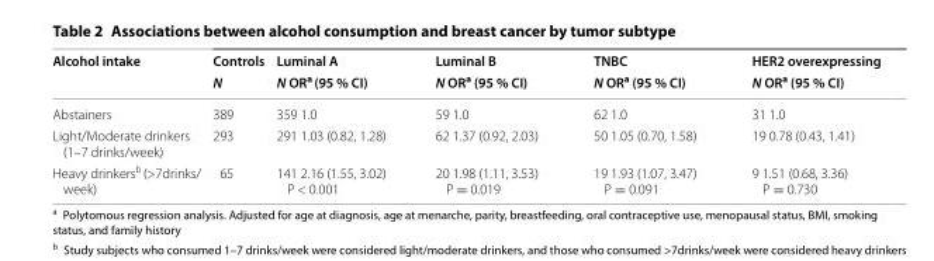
<table><thead><tr><td rowspan="2">Alcohol intake</td><td rowspan="2">Controls N</td><td rowspan="2">Luminal A N OR<sup>a</sup> (95 % CI)</td><td rowspan="2">Luminal B N OR<sup>a</sup> (95 % CI)</td><td rowspan="2">TNBC N OR<sup>a</sup> (95 % CI)</td><td rowspan="2">HER2 overexpressing N OR<sup>a</sup> (95 % CI)</td></tr><tr></tr></thead><tbody><tr><td>Abstainers</td><td>389</td><td>359 1.0</td><td>59 1.0</td><td>62 1.0</td><td>31 1.0</td></tr><tr><td>Light/Moderate drinkers (1–7 drinks/week)</td><td>293</td><td>291 1.03 (0.82, 1.28)</td><td>62 1.37 (0.92, 2.03)</td><td>50 1.05 (0.70, 1.58)</td><td>19 0.78 (0.43, 1.41)</td></tr><tr><td>Heavy drinkers<sup>b</sup> (&gt;7drinks/ week)</td><td>65</td><td>141 2.16 (1.55, 3.02) P &lt; 0.001</td><td>20 1.98 (1.11, 3.53) P = 0.019</td><td>19 1.93 (1.07, 3.47) P = 0.091</td><td>9 1.51 (0.68, 3.36) P = 0.730</td></tr></tbody></table>